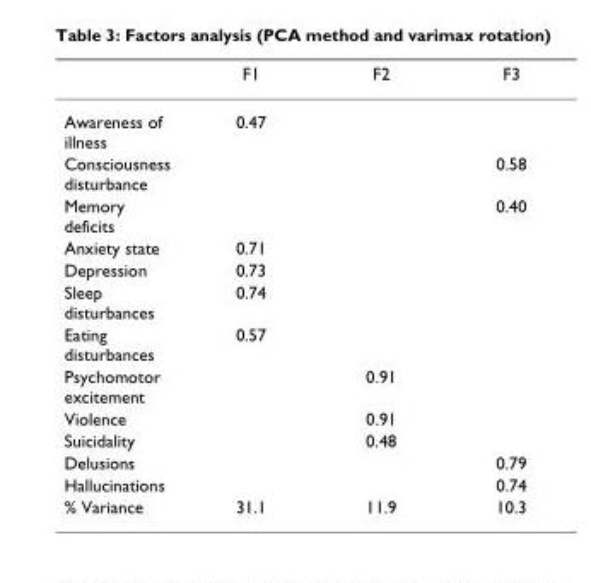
<table><thead><tr><td></td><td>F1</td><td>F2</td><td>F3</td></tr></thead><tbody><tr><td>Awareness of illness</td><td>0.47</td><td></td><td></td></tr><tr><td>Consciousness disturbance</td><td></td><td></td><td>0.58</td></tr><tr><td>Memory deficits</td><td></td><td></td><td>0.40</td></tr><tr><td>Anxiety state</td><td>0.71</td><td></td><td></td></tr><tr><td>Depression</td><td>0.73</td><td></td><td></td></tr><tr><td>Sleep disturbances</td><td>0.74</td><td></td><td></td></tr><tr><td>Eating disturbances</td><td>0.57</td><td></td><td></td></tr><tr><td>Psychomotor excitement</td><td></td><td>0.91</td><td></td></tr><tr><td>Violence</td><td></td><td>0.91</td><td></td></tr><tr><td>Suicidality</td><td></td><td>0.48</td><td></td></tr><tr><td>Delusions</td><td></td><td></td><td>0.79</td></tr><tr><td>Hallucinations</td><td></td><td></td><td>0.74</td></tr><tr><td>% Variance</td><td>31.1</td><td>11.9</td><td>10.3</td></tr></tbody></table>